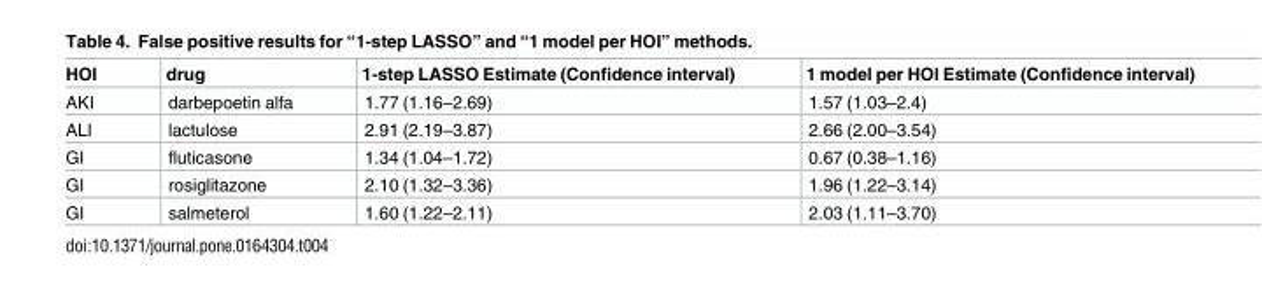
<table><thead><tr><td>HOI</td><td>drug</td><td>1-step LASSO Estimate (Confidence interval)</td><td>1 model per HOI Estimate (Confidence interval)</td></tr></thead><tbody><tr><td>AKI</td><td>darbepoetin alfa</td><td>1.77 (1.16–2.69)</td><td>1.57 (1.03–2.4)</td></tr><tr><td>ALI</td><td>lactulose</td><td>2.91 (2.19–3.87)</td><td>2.66 (2.00–3.54)</td></tr><tr><td>GI</td><td>fluticasone</td><td>1.34 (1.04–1.72)</td><td>0.67 (0.38–1.16)</td></tr><tr><td>GI</td><td>rosiglitazone</td><td>2.10 (1.32–3.36)</td><td>1.96 (1.22–3.14)</td></tr><tr><td>GI</td><td>salmeterol</td><td>1.60 (1.22–2.11)</td><td>2.03 (1.11–3.70)</td></tr></tbody></table>